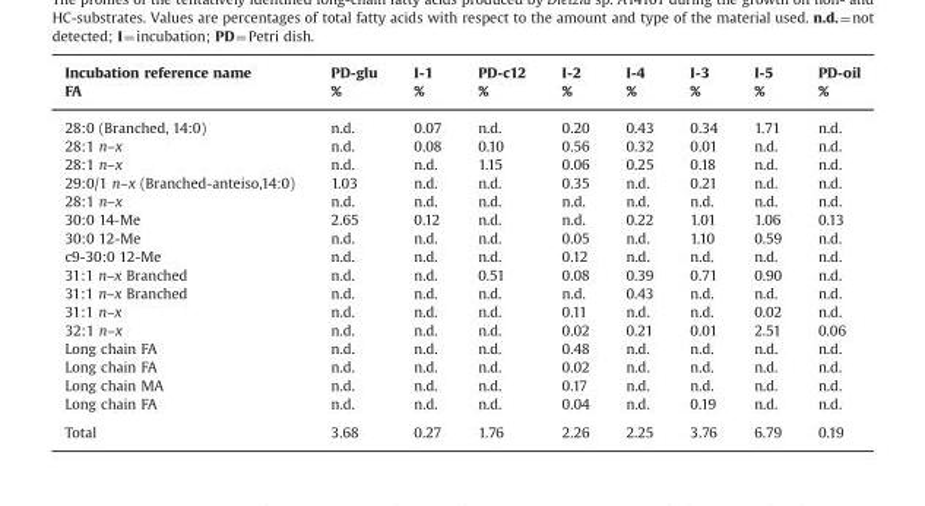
<table><thead><tr><td>Incubation reference name</td><td>PD-glu</td><td>I-1</td><td>PD-c12</td><td>I-2</td><td>I-4</td><td>I-3</td><td>I-5</td><td>PD-oil</td></tr></thead><tbody><tr><td>FA</td><td>%</td><td>%</td><td>%</td><td>%</td><td>%</td><td>%</td><td>%</td><td>%</td></tr><tr><td>28:0 (Branched, 14:0)</td><td>n.d.</td><td>0.07</td><td>n.d.</td><td>0.20</td><td>0.43</td><td>0.34</td><td>1.71</td><td>n.d.</td></tr><tr><td>28:1 n–x</td><td>n.d.</td><td>0.08</td><td>0.10</td><td>0.56</td><td>0.32</td><td>0.01</td><td>n.d.</td><td>n.d.</td></tr><tr><td>28:1 n–x</td><td>n.d.</td><td>n.d.</td><td>1.15</td><td>0.06</td><td>0.25</td><td>0.18</td><td>n.d.</td><td>n.d.</td></tr><tr><td>29:0/1 n–x (Branched-anteiso,14:0)</td><td>1.03</td><td>n.d.</td><td>n.d.</td><td>0.35</td><td>n.d.</td><td>0.21</td><td>n.d.</td><td>n.d.</td></tr><tr><td>28:1 n–x</td><td>n.d.</td><td>n.d.</td><td>n.d.</td><td>n.d.</td><td>n.d.</td><td>n.d.</td><td>n.d.</td><td>n.d.</td></tr><tr><td>30:0 14-Me</td><td>2.65</td><td>0.12</td><td>n.d.</td><td>n.d.</td><td>0.22</td><td>1.01</td><td>1.06</td><td>0.13</td></tr><tr><td>30:0 12-Me</td><td>n.d.</td><td>n.d.</td><td>n.d.</td><td>0.05</td><td>n.d.</td><td>1.10</td><td>0.59</td><td>n.d.</td></tr><tr><td>c9-30:0 12-Me</td><td>n.d.</td><td>n.d.</td><td>n.d.</td><td>0.12</td><td>n.d.</td><td>n.d.</td><td>n.d.</td><td>n.d.</td></tr><tr><td>31:1 n–x Branched</td><td>n.d.</td><td>n.d.</td><td>0.51</td><td>0.08</td><td>0.39</td><td>0.71</td><td>0.90</td><td>n.d.</td></tr><tr><td>31:1 n–x Branched</td><td>n.d.</td><td>n.d.</td><td>n.d.</td><td>n.d.</td><td>0.43</td><td>n.d.</td><td>n.d.</td><td>n.d.</td></tr><tr><td>31:1 n–x</td><td>n.d.</td><td>n.d.</td><td>n.d.</td><td>0.11</td><td>n.d.</td><td>n.d.</td><td>0.02</td><td>n.d.</td></tr><tr><td>32:1 n–x</td><td>n.d.</td><td>n.d.</td><td>n.d.</td><td>0.02</td><td>0.21</td><td>0.01</td><td>2.51</td><td>0.06</td></tr><tr><td>Long chain FA</td><td>n.d.</td><td>n.d.</td><td>n.d.</td><td>0.48</td><td>n.d.</td><td>n.d.</td><td>n.d.</td><td>n.d.</td></tr><tr><td>Long chain FA</td><td>n.d.</td><td>n.d.</td><td>n.d.</td><td>0.02</td><td>n.d.</td><td>n.d.</td><td>n.d.</td><td>n.d.</td></tr><tr><td>Long chain MA</td><td>n.d.</td><td>n.d.</td><td>n.d.</td><td>0.17</td><td>n.d.</td><td>n.d.</td><td>n.d.</td><td>n.d.</td></tr><tr><td>Long chain FA</td><td>n.d.</td><td>n.d.</td><td>n.d.</td><td>0.04</td><td>n.d.</td><td>0.19</td><td>n.d.</td><td>n.d.</td></tr><tr><td>Total</td><td>3.68</td><td>0.27</td><td>1.76</td><td>2.26</td><td>2.25</td><td>3.76</td><td>6.79</td><td>0.19</td></tr></tbody></table>